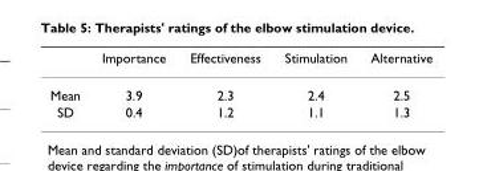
<table><thead><tr><td></td><td>Importance</td><td>Effectiveness</td><td>Stimulation</td><td>Alternative</td></tr></thead><tbody><tr><td>Mean</td><td>3.9</td><td>2.3</td><td>2.4</td><td>2.5</td></tr><tr><td>SD</td><td>0.4</td><td>1.2</td><td>1.1</td><td>1.3</td></tr></tbody></table>